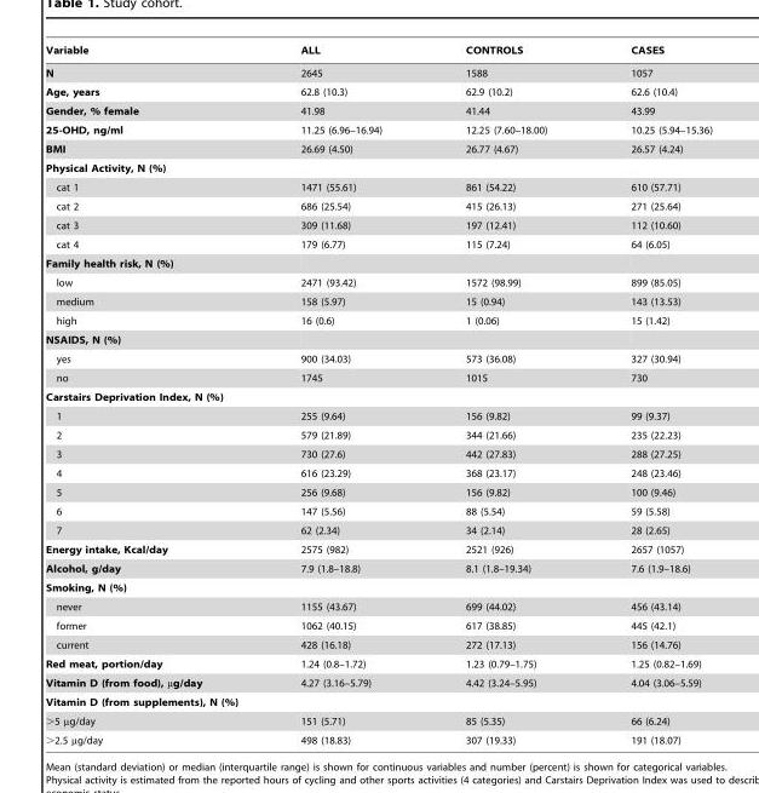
<table><thead><tr><td>Variable</td><td>ALL</td><td>CONTROLS</td><td>CASES</td></tr></thead><tbody><tr><td>N</td><td>2645</td><td>1588</td><td>1057</td></tr><tr><td>Age, years</td><td>62.8 (10.3)</td><td>62.9 (10.2)</td><td>62.6 (10.4)</td></tr><tr><td>Gender, % female</td><td>41.98</td><td>41.44</td><td>43.99</td></tr><tr><td>25-OHD, ng/ml</td><td>11.25 (6.96–16.94)</td><td>12.25 (7.60–18.00)</td><td>10.25 (5.94–15.36)</td></tr><tr><td>BMI</td><td>26.69 (4.50)</td><td>26.77 (4.67)</td><td>26.57 (4.24)</td></tr><tr><td colspan="4">Physical Activity, N (%)</td></tr><tr><td>cat 1</td><td>1471 (55.61)</td><td>861 (54.22)</td><td>610 (57.71)</td></tr><tr><td>cat 2</td><td>686 (25.54)</td><td>415 (26.13)</td><td>271 (25.64)</td></tr><tr><td>cat 3</td><td>309 (11.68)</td><td>197 (12.41)</td><td>112 (10.60)</td></tr><tr><td>cat 4</td><td>179 (6.77)</td><td>115 (7.24)</td><td>64 (6.05)</td></tr><tr><td colspan="4">Family health risk, N (%)</td></tr><tr><td>low</td><td>2471 (93.42)</td><td>1572 (98.99)</td><td>899 (85.05)</td></tr><tr><td>medium</td><td>158 (5.97)</td><td>15 (0.94)</td><td>143 (13.53)</td></tr><tr><td>high</td><td>16 (0.6)</td><td>1 (0.06)</td><td>15 (1.42)</td></tr><tr><td colspan="4">NSAIDS, N (%)</td></tr><tr><td>yes</td><td>900 (34.03)</td><td>573 (36.08)</td><td>327 (30.94)</td></tr><tr><td>no</td><td>1745</td><td>1015</td><td>730</td></tr><tr><td colspan="4">Carstairs Deprivation Index, N (%)</td></tr><tr><td>1</td><td>255 (9.64)</td><td>156 (9.82)</td><td>99 (9.37)</td></tr><tr><td>2</td><td>579 (21.89)</td><td>344 (21.66)</td><td>235 (22.23)</td></tr><tr><td>3</td><td>730 (27.6)</td><td>442 (27.83)</td><td>288 (27.25)</td></tr><tr><td>4</td><td>616 (23.29)</td><td>368 (23.17)</td><td>248 (23.46)</td></tr><tr><td>5</td><td>256 (9.68)</td><td>156 (9.82)</td><td>100 (9.46)</td></tr><tr><td>6</td><td>147 (5.56)</td><td>88 (5.54)</td><td>59 (5.58)</td></tr><tr><td>7</td><td>62 (2.34)</td><td>34 (2.14)</td><td>28 (2.65)</td></tr><tr><td>Energy intake, Kcal/day</td><td>2575 (982)</td><td>2521 (926)</td><td>2657 (1057)</td></tr><tr><td>Alcohol, g/day</td><td>7.9 (1.8–18.8)</td><td>8.1 (1.8–19.34)</td><td>7.6 (1.9–18.6)</td></tr><tr><td colspan="4">Smoking, N (%)</td></tr><tr><td>never</td><td>1155 (43.67)</td><td>699 (44.02)</td><td>456 (43.14)</td></tr><tr><td>former</td><td>1062 (40.15)</td><td>617 (38.85)</td><td>445 (42.1)</td></tr><tr><td>current</td><td>428 (16.18)</td><td>272 (17.13)</td><td>156 (14.76)</td></tr><tr><td>Red meat, portion/day</td><td>1.24 (0.8–1.72)</td><td>1.23 (0.79–1.75)</td><td>1.25 (0.82–1.69)</td></tr><tr><td>Vitamin D (from food), µg/day</td><td>4.27 (3.16–5.79)</td><td>4.42 (3.24–5.95)</td><td>4.04 (3.06–5.59)</td></tr><tr><td colspan="4">Vitamin D (from supplements), N (%)</td></tr><tr><td>&gt;5 µg/day</td><td>151 (5.71)</td><td>85 (5.35)</td><td>66 (6.24)</td></tr><tr><td>&gt;2.5 µg/day</td><td>498 (18.83)</td><td>307 (19.33)</td><td>191 (18.07)</td></tr></tbody></table>